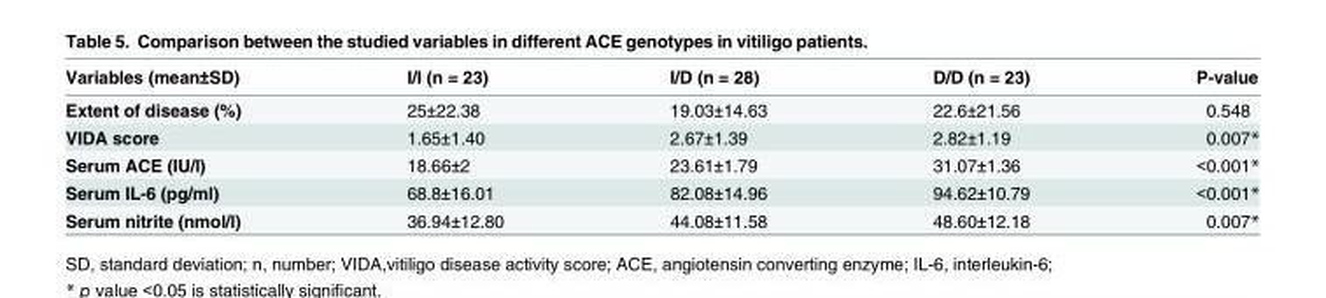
<table><thead><tr><td>Variables (mean±SD)</td><td>I/I (n = 23)</td><td>I/D (n = 28)</td><td>D/D (n = 23)</td><td>P-value</td></tr></thead><tbody><tr><td>Extent of disease (%)</td><td>25±22.38</td><td>19.03±14.63</td><td>22.6±21.56</td><td>0.548</td></tr><tr><td>VIDA score</td><td>1.65±1.40</td><td>2.67±1.39</td><td>2.82±1.19</td><td>0.007*</td></tr><tr><td>Serum ACE (IU/l)</td><td>18.66±2</td><td>23.61±1.79</td><td>31.07±1.36</td><td>&lt;0.001*</td></tr><tr><td>Serum IL-6 (pg/ml)</td><td>68.8±16.01</td><td>82.08±14.96</td><td>94.62±10.79</td><td>&lt;0.001*</td></tr><tr><td>Serum nitrite (nmol/l)</td><td>36.94±12.80</td><td>44.08±11.58</td><td>48.60±12.18</td><td>0.007*</td></tr></tbody></table>